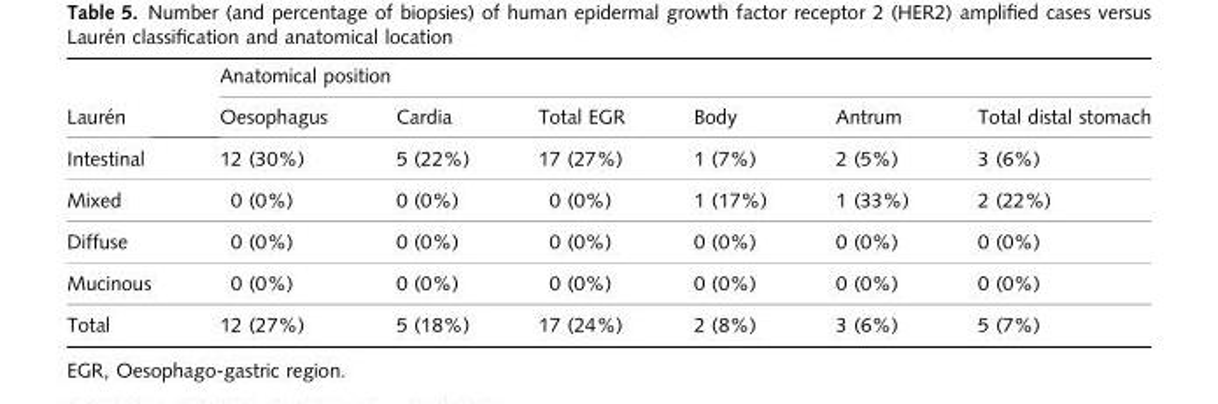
<table><thead><tr><td rowspan="2">Laure´n</td><td colspan="6">Anatomical position</td></tr><tr><td>Oesophagus</td><td>Cardia</td><td>Total EGR</td><td>Body</td><td>Antrum</td><td>Total distal stomach</td></tr></thead><tbody><tr><td>Intestinal</td><td>12 (30%)</td><td>5 (22%)</td><td>17 (27%)</td><td>1 (7%)</td><td>2 (5%)</td><td>3 (6%)</td></tr><tr><td>Mixed</td><td>0 (0%)</td><td>0 (0%)</td><td>0 (0%)</td><td>1 (17%)</td><td>1 (33%)</td><td>2 (22%)</td></tr><tr><td>Diffuse</td><td>0 (0%)</td><td>0 (0%)</td><td>0 (0%)</td><td>0 (0%)</td><td>0 (0%)</td><td>0 (0%)</td></tr><tr><td>Mucinous</td><td>0 (0%)</td><td>0 (0%)</td><td>0 (0%)</td><td>0 (0%)</td><td>0 (0%)</td><td>0 (0%)</td></tr><tr><td>Total</td><td>12 (27%)</td><td>5 (18%)</td><td>17 (24%)</td><td>2 (8%)</td><td>3 (6%)</td><td>5 (7%)</td></tr></tbody></table>